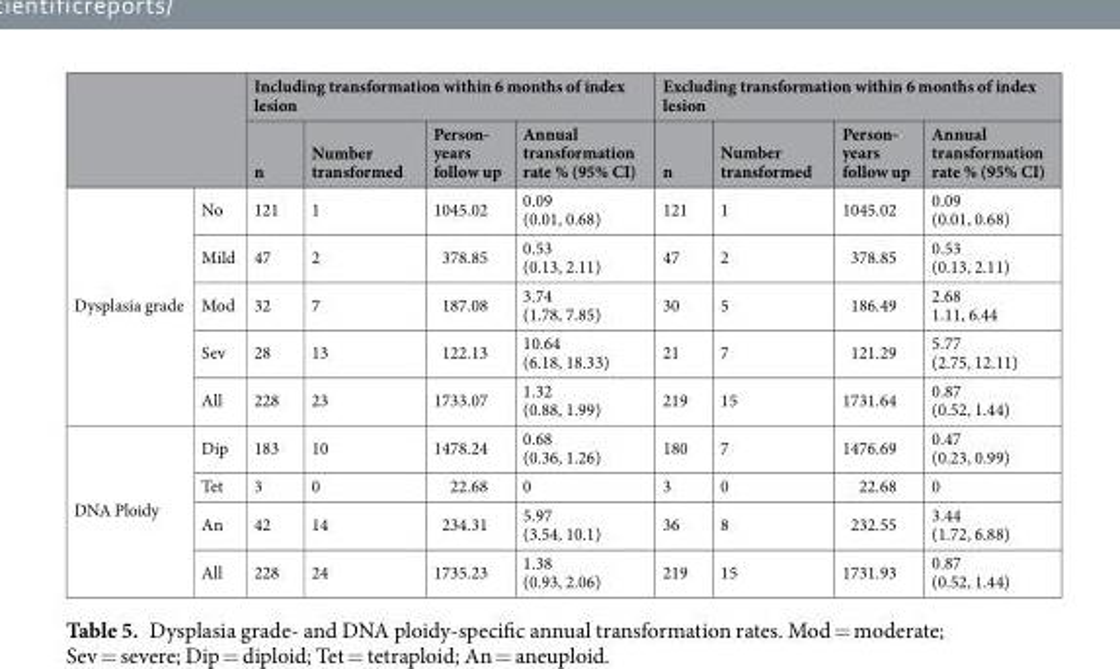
<table><thead><tr><td rowspan="2"></td><td rowspan="2"></td><td colspan="4">Including transformation within 6 months of index lesion</td><td colspan="4">Excluding transformation within 6 months of index lesion</td></tr><tr><td>n</td><td>Number transformed</td><td>Person- years follow up</td><td>Annual transformation rate % (95% CI)</td><td>n</td><td>Number transformed</td><td>Person- years follow up</td><td>Annual transformation rate % (95% CI)</td></tr></thead><tbody><tr><td rowspan="5">Dysplasia grade</td><td>No</td><td>121</td><td>1</td><td>1045.02</td><td>0.09 (0.01, 0.68)</td><td>121</td><td>1</td><td>1045.02</td><td>0.09 (0.01, 0.68)</td></tr><tr><td>Mild</td><td>47</td><td>2</td><td>378.85</td><td>0.53 (0.13, 2.11)</td><td>47</td><td>2</td><td>378.85</td><td>0.53 (0.13, 2.11)</td></tr><tr><td>Mod</td><td>32</td><td>7</td><td>187.08</td><td>3.74 (1.78, 7.85)</td><td>30</td><td>5</td><td>186.49</td><td>2.68 1.11, 6.44</td></tr><tr><td>Sev</td><td>28</td><td>13</td><td>122.13</td><td>10.64 (6.18, 18.33)</td><td>21</td><td>7</td><td>121.29</td><td>5.77 (2.75, 12.11)</td></tr><tr><td>All</td><td>228</td><td>23</td><td>1733.07</td><td>1.32 (0.88, 1.99)</td><td>219</td><td>15</td><td>1731.64</td><td>0.87 (0.52, 1.44)</td></tr><tr><td rowspan="4">DNA Ploidy</td><td>Dip</td><td>183</td><td>10</td><td>1478.24</td><td>0.68 (0.36, 1.26)</td><td>180</td><td>7</td><td>1476.69</td><td>0.47 (0.23, 0.99)</td></tr><tr><td>Tet</td><td>3</td><td>0</td><td>22.68</td><td>0</td><td>3</td><td>0</td><td>22.68</td><td>0</td></tr><tr><td>An</td><td>42</td><td>14</td><td>234.31</td><td>5.97 (3.54, 10.1)</td><td>36</td><td>8</td><td>232.55</td><td>3.44 (1.72, 6.88)</td></tr><tr><td>All</td><td>228</td><td>24</td><td>1735.23</td><td>1.38 (0.93, 2.06)</td><td>219</td><td>15</td><td>1731.93</td><td>0.87 (0.52, 1.44)</td></tr></tbody></table>